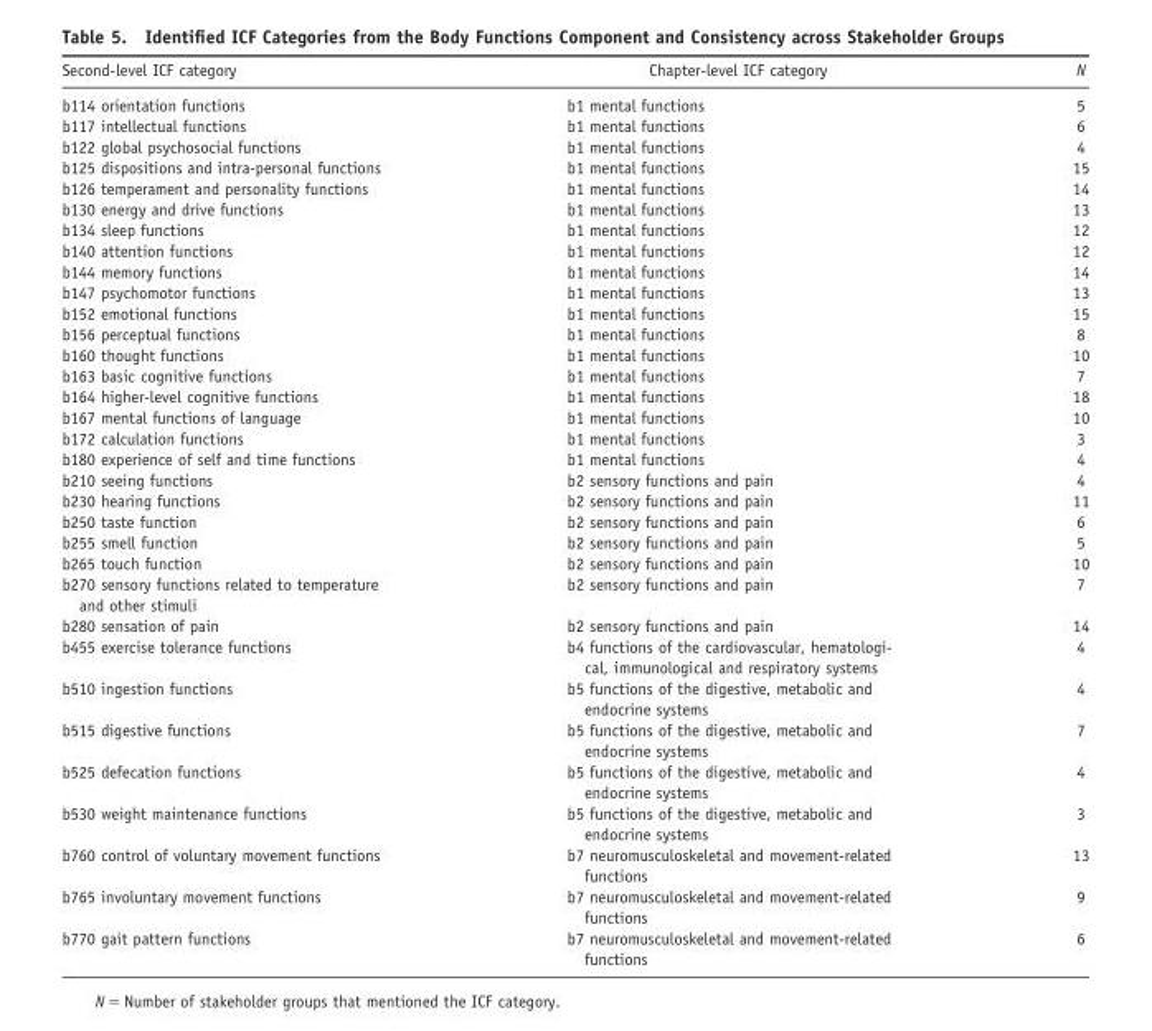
<table><thead><tr><td>Second-level ICF category</td><td>Chapter-level ICF category</td><td>N</td></tr></thead><tbody><tr><td>b114 orientation functions</td><td>b1 mental functions</td><td>5</td></tr><tr><td>b117 intellectual functions</td><td>b1 mental functions</td><td>6</td></tr><tr><td>b122 global psychosocial functions</td><td>b1 mental functions</td><td>4</td></tr><tr><td>b125 dispositions and intra-personal functions</td><td>b1 mental functions</td><td>15</td></tr><tr><td>b126 temperament and personality functions</td><td>b1 mental functions</td><td>14</td></tr><tr><td>b130 energy and drive functions</td><td>b1 mental functions</td><td>13</td></tr><tr><td>b134 sleep functions</td><td>b1 mental functions</td><td>12</td></tr><tr><td>b140 attention functions</td><td>b1 mental functions</td><td>12</td></tr><tr><td>b144 memory functions</td><td>b1 mental functions</td><td>14</td></tr><tr><td>b147 psychomotor functions</td><td>b1 mental functions</td><td>13</td></tr><tr><td>b152 emotional functions</td><td>b1 mental functions</td><td>15</td></tr><tr><td>b156 perceptual functions</td><td>b1 mental functions</td><td>8</td></tr><tr><td>b160 thought functions</td><td>b1 mental functions</td><td>10</td></tr><tr><td>b163 basic cognitive functions</td><td>b1 mental functions</td><td>7</td></tr><tr><td>b164 higher-level cognitive functions</td><td>b1 mental functions</td><td>18</td></tr><tr><td>b167 mental functions of language</td><td>b1 mental functions</td><td>10</td></tr><tr><td>b172 calculation functions</td><td>b1 mental functions</td><td>3</td></tr><tr><td>b180 experience of self and time functions</td><td>b1 mental functions</td><td>4</td></tr><tr><td>b210 seeing functions</td><td>b2 sensory functions and pain</td><td>4</td></tr><tr><td>b230 hearing functions</td><td>b2 sensory functions and pain</td><td>11</td></tr><tr><td>b250 taste function</td><td>b2 sensory functions and pain</td><td>6</td></tr><tr><td>b255 smell function</td><td>b2 sensory functions and pain</td><td>5</td></tr><tr><td>b265 touch function</td><td>b2 sensory functions and pain</td><td>10</td></tr><tr><td>b270 sensory functions related to temperature and other stimuli</td><td>b2 sensory functions and pain</td><td>7</td></tr><tr><td>b280 sensation of pain</td><td>b2 sensory functions and pain</td><td>14</td></tr><tr><td>b455 exercise tolerance functions</td><td>b4 functions of the cardiovascular, hematologi- cal, immunological and respiratory systems</td><td>4</td></tr><tr><td>b510 ingestion functions</td><td>b5 functions of the digestive, metabolic and endocrine systems</td><td>4</td></tr><tr><td>b515 digestive functions</td><td>b5 functions of the digestive, metabolic and endocrine systems</td><td>7</td></tr><tr><td>b525 defecation functions</td><td>b5 functions of the digestive, metabolic and endocrine systems</td><td>4</td></tr><tr><td>b530 weight maintenance functions</td><td>b5 functions of the digestive, metabolic and endocrine systems</td><td>3</td></tr><tr><td>b760 control of voluntary movement functions</td><td>b7 neuromusculoskeletal and movement-related functions</td><td>13</td></tr><tr><td>b765 involuntary movement functions</td><td>b7 neuromusculoskeletal and movement-related functions</td><td>9</td></tr><tr><td>b770 gait pattern functions</td><td>b7 neuromusculoskeletal and movement-related functions</td><td>6</td></tr></tbody></table>